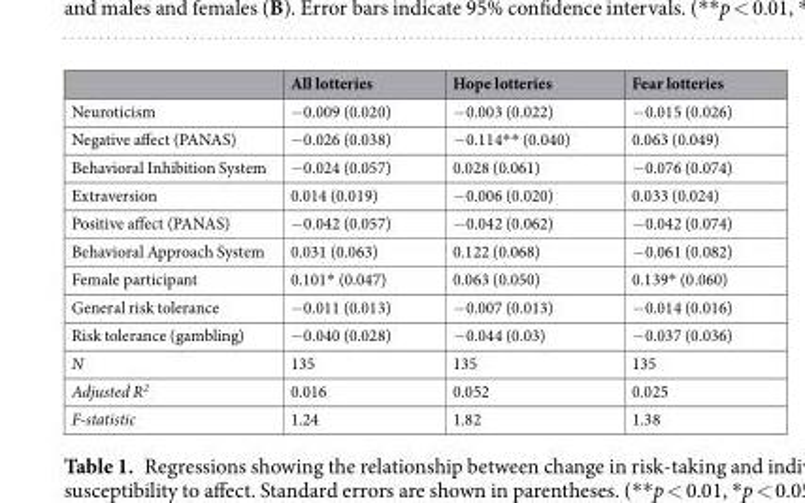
<table><thead><tr><td></td><td>All lotteries</td><td>Hope lotteries</td><td>Fear lotteries</td></tr></thead><tbody><tr><td>Neuroticism</td><td>−0.009 (0.020)</td><td>−0.003 (0.022)</td><td>−0.015 (0.026)</td></tr><tr><td>Negative affect (PANAS)</td><td>−0.026 (0.038)</td><td>−0.114** (0.040)</td><td>0.063 (0.049)</td></tr><tr><td>Behavioral Inhibition System</td><td>−0.024 (0.057)</td><td>0.028 (0.061)</td><td>−0.076 (0.074)</td></tr><tr><td>Extraversion</td><td>0.014 (0.019)</td><td>−0.006 (0.020)</td><td>0.033 (0.024)</td></tr><tr><td>Positive affect (PANAS)</td><td>−0.042 (0.057)</td><td>−0.042 (0.062)</td><td>−0.042 (0.074)</td></tr><tr><td>Behavioral Approach System</td><td>0.031 (0.063)</td><td>0.122 (0.068)</td><td>−0.061 (0.082)</td></tr><tr><td>Female participant</td><td>0.101* (0.047)</td><td>0.063 (0.050)</td><td>0.139* (0.060)</td></tr><tr><td>General risk tolerance</td><td>−0.011 (0.013)</td><td>−0.007 (0.013)</td><td>−0.014 (0.016)</td></tr><tr><td>Risk tolerance (gambling)</td><td>−0.040 (0.028)</td><td>−0.044 (0.03)</td><td>−0.037 (0.036)</td></tr><tr><td>N</td><td>135</td><td>135</td><td>135</td></tr><tr><td>Adjusted R<sup>2</sup></td><td>0.016</td><td>0.052</td><td>0.025</td></tr><tr><td>F-statistic</td><td>1.24</td><td>1.82</td><td>1.38</td></tr></tbody></table>